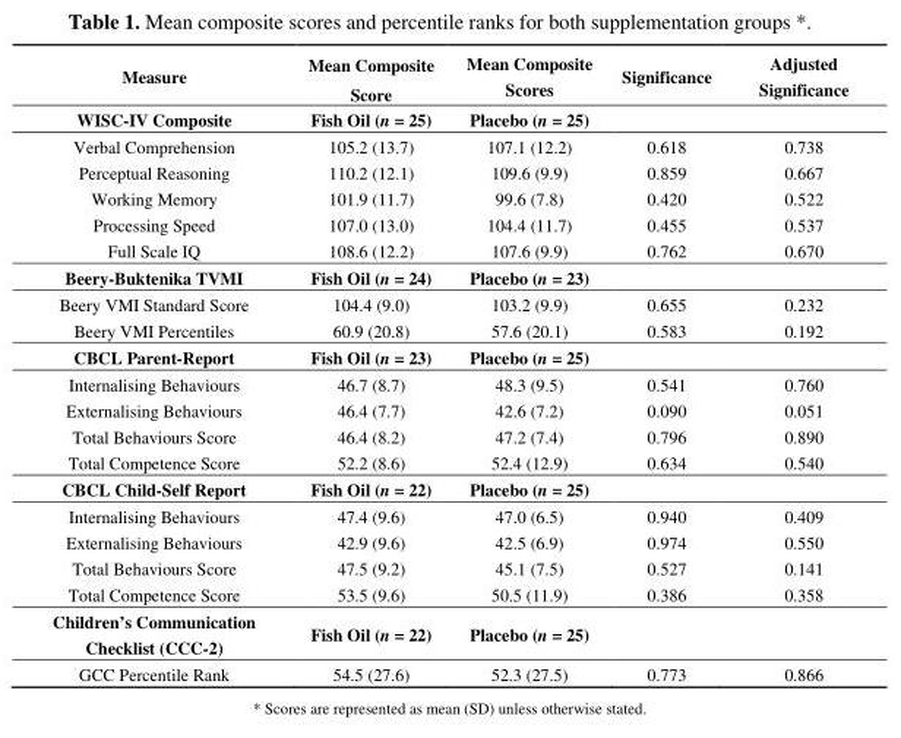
<table><thead><tr><td>Measure</td><td>Mean Composite Score</td><td>Mean Composite Scores</td><td>Significance</td><td>Adjusted Significance</td></tr></thead><tbody><tr><td>WISC-IV Composite</td><td>Fish Oil (n = 25)</td><td>Placebo (n = 25)</td><td></td><td></td></tr><tr><td>Verbal Comprehension</td><td>105.2 (13.7)</td><td>107.1 (12.2)</td><td>0.618</td><td>0.738</td></tr><tr><td>Perceptual Reasoning</td><td>110.2 (12.1)</td><td>109.6 (9.9)</td><td>0.859</td><td>0.667</td></tr><tr><td>Working Memory</td><td>101.9 (11.7)</td><td>99.6 (7.8)</td><td>0.420</td><td>0.522</td></tr><tr><td>Processing Speed</td><td>107.0 (13.0)</td><td>104.4 (11.7)</td><td>0.455</td><td>0.537</td></tr><tr><td>Full Scale IQ</td><td>108.6 (12.2)</td><td>107.6 (9.9)</td><td>0.762</td><td>0.670</td></tr><tr><td>Beery-Buktenika TVMI</td><td>Fish Oil (n = 24)</td><td>Placebo (n = 23)</td><td></td><td></td></tr><tr><td>Beery VMI Standard Score</td><td>104.4 (9.0)</td><td>103.2 (9.9)</td><td>0.655</td><td>0.232</td></tr><tr><td>Beery VMI Percentiles</td><td>60.9 (20.8)</td><td>57.6 (20.1)</td><td>0.583</td><td>0.192</td></tr><tr><td>CBCL Parent-Report</td><td>Fish Oil (n = 23)</td><td>Placebo (n = 25)</td><td></td><td></td></tr><tr><td>Internalising Behaviours</td><td>46.7 (8.7)</td><td>48.3 (9.5)</td><td>0.541</td><td>0.760</td></tr><tr><td>Externalising Behaviours</td><td>46.4 (7.7)</td><td>42.6 (7.2)</td><td>0.090</td><td>0.051</td></tr><tr><td>Total Behaviours Score</td><td>46.4 (8.2)</td><td>47.2 (7.4)</td><td>0.796</td><td>0.890</td></tr><tr><td>Total Competence Score</td><td>52.2 (8.6)</td><td>52.4 (12.9)</td><td>0.634</td><td>0.540</td></tr><tr><td>CBCL Child-Self Report</td><td>Fish Oil (n = 22)</td><td>Placebo (n = 25)</td><td></td><td></td></tr><tr><td>Internalising Behaviours</td><td>47.4 (9.6)</td><td>47.0 (6.5)</td><td>0.940</td><td>0.409</td></tr><tr><td>Externalising Behaviours</td><td>42.9 (9.6)</td><td>42.5 (6.9)</td><td>0.974</td><td>0.550</td></tr><tr><td>Total Behaviours Score</td><td>47.5 (9.2)</td><td>45.1 (7.5)</td><td>0.527</td><td>0.141</td></tr><tr><td>Total Competence Score</td><td>53.5 (9.6)</td><td>50.5 (11.9)</td><td>0.386</td><td>0.358</td></tr><tr><td>Children’s Communication Checklist (CCC-2)</td><td>Fish Oil (n = 22)</td><td>Placebo (n = 25)</td><td></td><td></td></tr><tr><td>GCC Percentile Rank</td><td>54.5 (27.6)</td><td>52.3 (27.5)</td><td>0.773</td><td>0.866</td></tr></tbody></table>